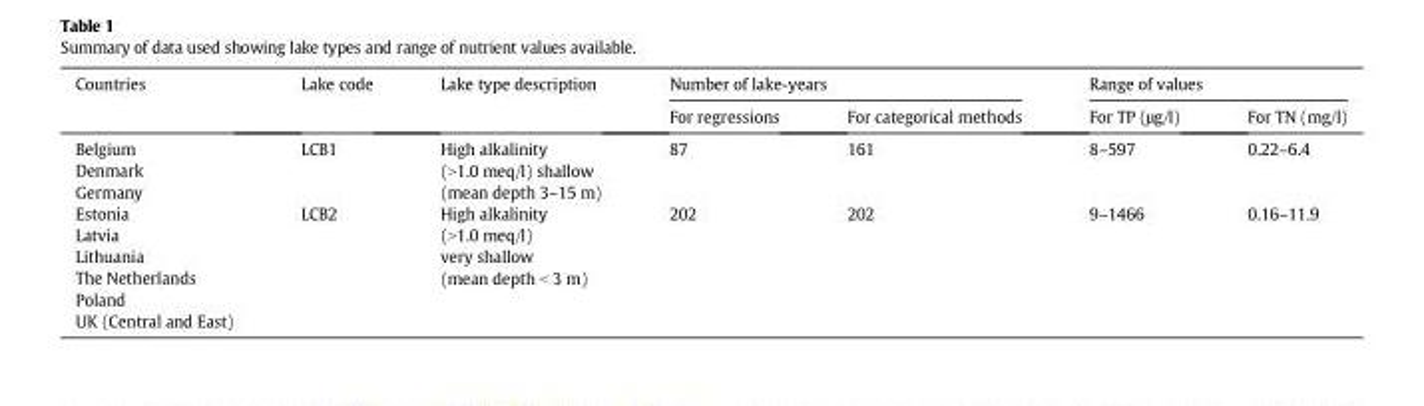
<table><thead><tr><td rowspan="2">Countries</td><td rowspan="2">Lake code</td><td rowspan="2">Lake type description</td><td colspan="2">Number of lake-years</td><td colspan="2">Range of values</td></tr><tr><td>For regressions</td><td>For categorical methods</td><td>For TP (μg/l)</td><td>For TN (mg/l)</td></tr></thead><tbody><tr><td rowspan="2">Belgium Denmark Germany Estonia Latvia Lithuania The Netherlands Poland UK (Central and East)</td><td>LCB1</td><td>High alkalinity (&gt;1.0 meq/l) shallow (mean depth 3–15 m)</td><td>87</td><td>161</td><td>8–597</td><td>0.22–6.4</td></tr><tr><td>LCB2</td><td>High alkalinity (&gt;1.0 meq/l) very shallow (mean depth &lt; 3 m)</td><td>202</td><td>202</td><td>9–1466</td><td>0.16–11.9</td></tr></tbody></table>